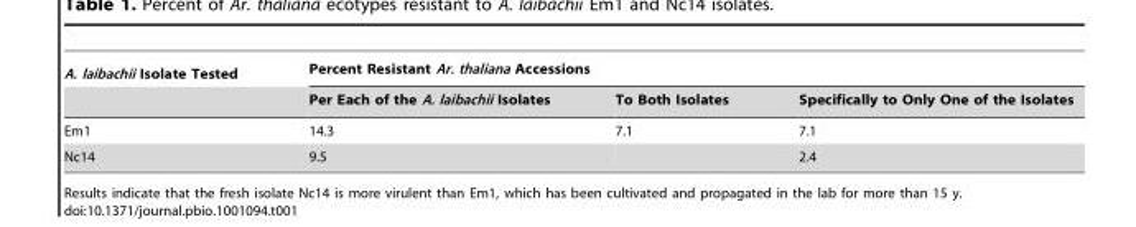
<table><thead><tr><td rowspan="2">A. laibachii Isolate Tested</td><td colspan="3">Percent Resistant Ar. thaliana Accessions</td></tr><tr><td>Per Each of the A. laibachii Isolates</td><td>To Both Isolates</td><td>Specifically to Only One of the Isolates</td></tr></thead><tbody><tr><td>Em1</td><td>14.3</td><td>7.1</td><td>7.1</td></tr><tr><td>Nc14</td><td>9.5</td><td></td><td>2.4</td></tr></tbody></table>